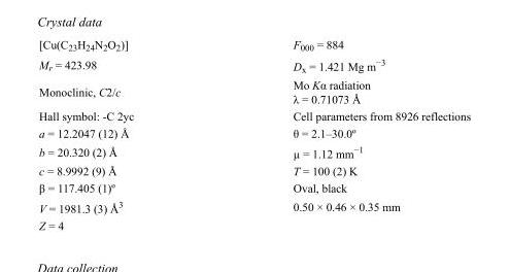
<table><tbody><tr><td>[Cu(C<sub>23</sub>H<sub>24</sub>N<sub>2</sub>O<sub>2</sub>)]</td><td>F000 = 884</td></tr><tr><td>M<sub>r</sub> = 423.98</td><td>D<sub>x</sub> = 1.421 Mg m<sup>−3</sup></td></tr><tr><td>Monoclinic, C2/c</td><td>Mo Kα radiation λ = 0.71073 Å</td></tr><tr><td>Hall symbol: -C 2yc</td><td>Cell parameters from 8926 reflections</td></tr><tr><td>a = 12.2047 (12) Å</td><td>θ = 2.1–30.0º</td></tr><tr><td>b = 20.320 (2) Å</td><td>µ = 1.12 mm<sup>−1</sup></td></tr><tr><td>c = 8.9992 (9) Å</td><td>T = 100 (2) K</td></tr><tr><td>β = 117.405 (1)º</td><td>Oval, black</td></tr><tr><td>V = 1981.3 (3) Å<sup>3</sup></td><td>0.50 × 0.46 × 0.35 mm</td></tr><tr><td>Z = 4</td><td></td></tr></tbody></table>